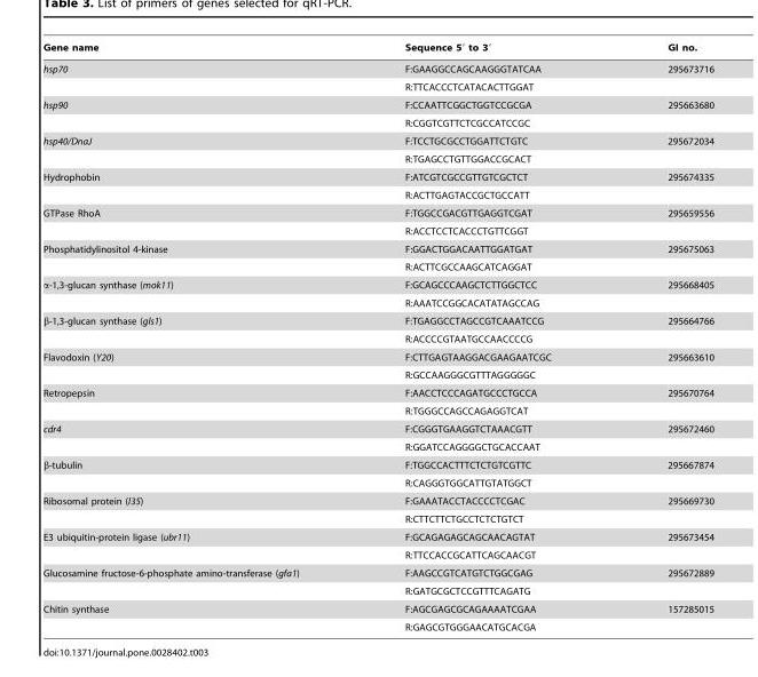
<table><thead><tr><td>Gene name</td><td>Sequence 5′ to 3′</td><td>GI no.</td></tr></thead><tbody><tr><td rowspan="2">hsp70</td><td>F:GAAGGCCAGCAAGGGTATCAA</td><td>295673716</td></tr><tr><td>R:TTCACCCTCATACACTTGGAT</td><td></td></tr><tr><td rowspan="2">hsp90</td><td>F:CCAATTCGGCTGGTCCGCGA</td><td>295663680</td></tr><tr><td>R:CGGTCGTTCTCGCCATCCGC</td><td></td></tr><tr><td rowspan="2">hsp40/DnaJ</td><td>F:TCCTGCGCCTGGATTCTGTC</td><td>295672034</td></tr><tr><td>R:TGAGCCTGTTGGACCGCACT</td><td></td></tr><tr><td rowspan="2">Hydrophobin</td><td>F:ATCGTCGCCGTTGTCGCTCT</td><td>295674335</td></tr><tr><td>R:ACTTGAGTACCGCTGCCATT</td><td></td></tr><tr><td rowspan="2">GTPase RhoA</td><td>F:TGGCCGACGTTGAGGTCGAT</td><td>295659556</td></tr><tr><td>R:ACCTCCTCACCCTGTTCGGT</td><td></td></tr><tr><td rowspan="2">Phosphatidylinositol 4-kinase</td><td>F:GGACTGGACAATTGGATGAT</td><td>295675063</td></tr><tr><td>R:ACTTCGCCAAGCATCAGGAT</td><td></td></tr><tr><td rowspan="2">α-1,3-glucan synthase (mok11)</td><td>F:GCAGCCCAAGCTCTTGGCTCC</td><td>295668405</td></tr><tr><td>R:AAATCCGGCACATATAGCCAG</td><td></td></tr><tr><td rowspan="2">β-1,3-glucan synthase (gls1)</td><td>F:TGAGGCCTAGCCGTCAAATCCG</td><td>295664766</td></tr><tr><td>R:ACCCCGTAATGCCAACCCCG</td><td></td></tr><tr><td rowspan="2">Flavodoxin (Y20)</td><td>F:CTTGAGTAAGGACGAAGAATCGC</td><td>295663610</td></tr><tr><td>R:GCCAAGGGCGTTTAGGGGGC</td><td></td></tr><tr><td rowspan="2">Retropepsin</td><td>F:AACCTCCCAGATGCCCTGCCA</td><td>295670764</td></tr><tr><td>R:TGGGCCAGCCAGAGGTCAT</td><td></td></tr><tr><td rowspan="2">cdr4</td><td>F:CGGGTGAAGGTCTAAACGTT</td><td>295672460</td></tr><tr><td>R:GGATCCAGGGGCTGCACCAAT</td><td></td></tr><tr><td rowspan="2">β-tubulin</td><td>F:TGGCCACTTTCTCTGTCGTTC</td><td>295667874</td></tr><tr><td>R:CAGGGTGGCATTGTATGGCT</td><td></td></tr><tr><td rowspan="2">Ribosomal protein (l35)</td><td>F:GAAATACCTACCCCTCGAC</td><td>295669730</td></tr><tr><td>R:CTTCTTCTGCCTCTCTGTCT</td><td></td></tr><tr><td rowspan="2">E3 ubiquitin-protein ligase (ubr11)</td><td>F:GCAGAGAGCAGCAACAGTAT</td><td>295673454</td></tr><tr><td>R:TTCCACCGCATTCAGCAACGT</td><td></td></tr><tr><td rowspan="2">Glucosamine fructose-6-phosphate amino-transferase (gfa1)</td><td>F:AAGCCGTCATGTCTGGCGAG</td><td>295672889</td></tr><tr><td>R:GATGCGCTCCGTTTCAGATG</td><td></td></tr><tr><td rowspan="2">Chitin synthase</td><td>F:AGCGAGCGCAGAAAATCGAA</td><td>157285015</td></tr><tr><td>R:GAGCGTGGGAACATGCACGA</td><td></td></tr></tbody></table>